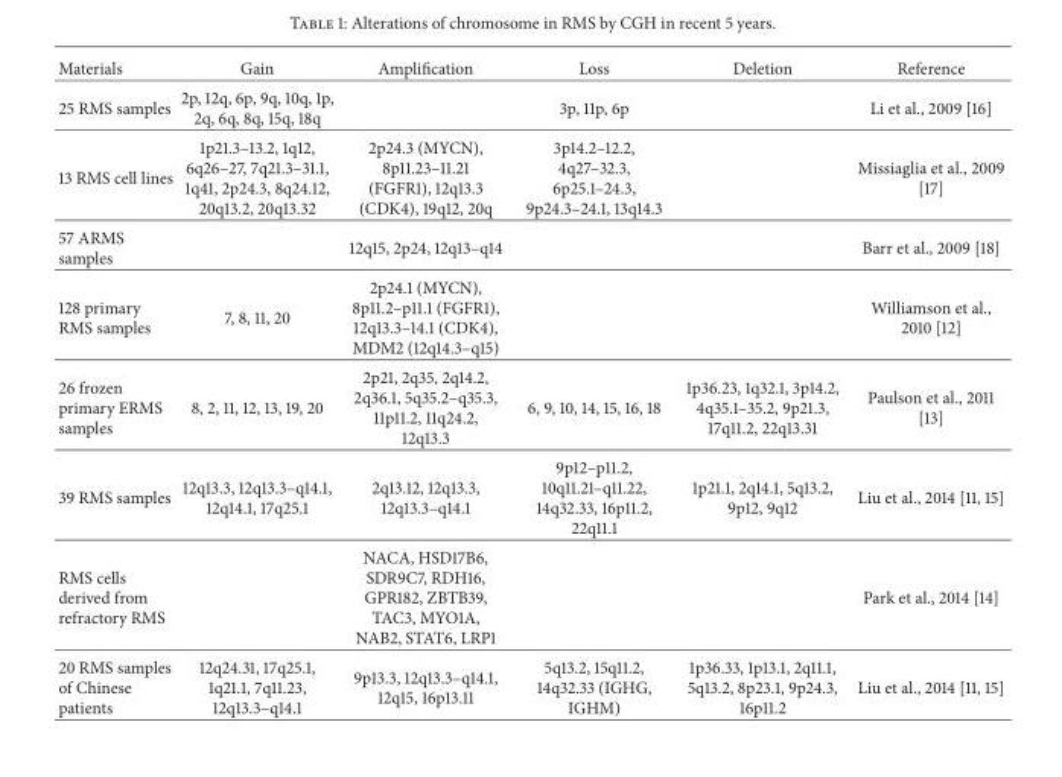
<table><thead><tr><td>Materials</td><td>Gain</td><td>Amplification</td><td>Loss</td><td>Deletion</td><td>Reference</td></tr></thead><tbody><tr><td>25 RMS samples</td><td>2p, 12q, 6p, 9q, 10q, 1p, 2q, 6q, 8q, 15q, 18q</td><td></td><td>3p, 11p, 6p</td><td></td><td>Li et al., 2009 [16]</td></tr><tr><td>13 RMS cell lines</td><td>1p21.3–13.2, 1q12, 6q26–27, 7q21.3–31.1, 1q41, 2p24.3, 8q24.12, 20q13.2, 20q13.32</td><td>2p24.3 (MYCN), 8p11.23–11.21 (FGFR1), 12q13.3 (CDK4), 19q12, 20q</td><td>3p14.2–12.2, 4q27–32.3, 6p25.1–24.3, 9p24.3–24.1, 13q14.3</td><td></td><td>Missiaglia et al., 2009 [17]</td></tr><tr><td>57 ARMS samples</td><td></td><td>12q15, 2p24, 12q13–q14</td><td></td><td></td><td>Barr et al., 2009 [18]</td></tr><tr><td>128 primary RMS samples</td><td>7, 8, 11, 20</td><td>2p24.1 (MYCN), 8p11.2–p11.1 (FGFR1), 12q13.3–14.1 (CDK4), MDM2 (12q14.3–q15)</td><td></td><td></td><td>Williamson et al., 2010 [12]</td></tr><tr><td>26 frozen primary ERMS samples</td><td>8, 2, 11, 12, 13, 19, 20</td><td>2p21, 2q35, 2q14.2, 2q36.1, 5q35.2–q35.3, 11p11.2, 11q24.2, 12q13.3</td><td>6, 9, 10, 14, 15, 16, 18</td><td>1p36.23, 1q32.1, 3p14.2, 4q35.1–35.2, 9p21.3, 17q11.2, 22q13.31</td><td>Paulson et al., 2011 [13]</td></tr><tr><td>39 RMS samples</td><td>12q13.3, 12q13.3–q14.1, 12q14.1, 17q25.1</td><td>2q13.12, 12q13.3, 12q13.3–q14.1</td><td>9p12–p11.2, 10q11.21–q11.22, 14q32.33, 16p11.2, 22q11.1</td><td>1p21.1, 2q14.1, 5q13.2, 9p12, 9q12</td><td>Liu et al., 2014 [11, 15]</td></tr><tr><td>RMS cells derived from refractory RMS</td><td></td><td>NACA, HSD17B6, SDR9C7, RDH16, GPR182, ZBTB39, TAC3, MYO1A, NAB2, STAT6, LRP1</td><td></td><td></td><td>Park et al., 2014 [14]</td></tr><tr><td>20 RMS samples of Chinese patients</td><td>12q24.31, 17q25.1, 1q21.1, 7q11.23, 12q13.3–q14.1</td><td>9p13.3, 12q13.3–q14.1, 12q15, 16p13.11</td><td>5q13.2, 15q11.2, 14q32.33 (IGHG, IGHM)</td><td>1p36.33, 1p13.1, 2q11.1, 5q13.2, 8p23.1, 9p24.3, 16p11.2</td><td>Liu et al., 2014 [11, 15]</td></tr></tbody></table>